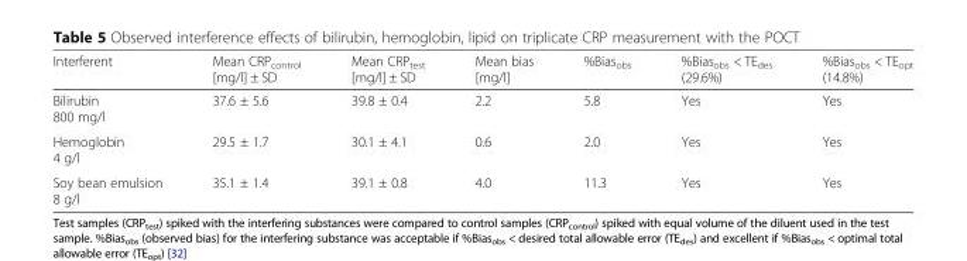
<table><thead><tr><td>Interferent</td><td>Mean CRP<sub>control</sub> [mg/l] ± SD</td><td>Mean CRP<sub>test</sub> [mg/l] ± SD</td><td>Mean bias [mg/l]</td><td>%Bias<sub>obs</sub></td><td>%Bias<sub>obs</sub> &lt; TE<sub>des</sub> (29.6%)</td><td>%Bias<sub>obs</sub> &lt; TE<sub>opt</sub> (14.8%)</td></tr></thead><tbody><tr><td>Bilirubin 800 mg/l</td><td>37.6 ± 5.6</td><td>39.8 ± 0.4</td><td>2.2</td><td>5.8</td><td>Yes</td><td>Yes</td></tr><tr><td>Hemoglobin 4 g/l</td><td>29.5 ± 1.7</td><td>30.1 ± 4.1</td><td>0.6</td><td>2.0</td><td>Yes</td><td>Yes</td></tr><tr><td>Soy bean emulsion 8 g/l</td><td>35.1 ± 1.4</td><td>39.1 ± 0.8</td><td>4.0</td><td>11.3</td><td>Yes</td><td>Yes</td></tr></tbody></table>